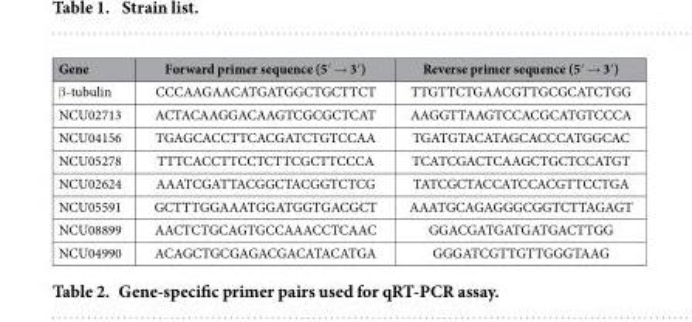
<table><thead><tr><td>Gene</td><td>Forward primer sequence (5′ → 3′ )</td><td>Reverse primer sequence (5′ → 3′ )</td></tr></thead><tbody><tr><td>β -tubulin</td><td>CCCAAGAACATGATGGCTGCTTCT</td><td>TTGTTCTGAACGTTGCGCATCTGG</td></tr><tr><td>NCU02713</td><td>ACTACAAGGACAAGTCGCGCTCAT</td><td>AAGGTTAAGTCCACGCATGTCCCA</td></tr><tr><td>NCU04156</td><td>TGAGCACCTTCACGATCTGTCCAA</td><td>TGATGTACATAGCACCCATGGCAC</td></tr><tr><td>NCU05278</td><td>TTTCACCTTCCTCTTCGCTTCCCA</td><td>TCATCGACTCAAGCTGCTCCATGT</td></tr><tr><td>NCU02624</td><td>AAATCGATTACGGCTACGGTCTCG</td><td>TATCGCTACCATCCACGTTCCTGA</td></tr><tr><td>NCU05591</td><td>GCTTTGGAAATGGATGGTGACGCT</td><td>AAATGCAGAGGGCGGTCTTAGAGT</td></tr><tr><td>NCU08899</td><td>AACTCTGCAGTGCCAAACCTCAAC</td><td>GGACGATGATGATGACTTGG</td></tr><tr><td>NCU04990</td><td>ACAGCTGCGAGACGACATACATGA</td><td>GGGATCGTTGTTGGGTAAG</td></tr></tbody></table>